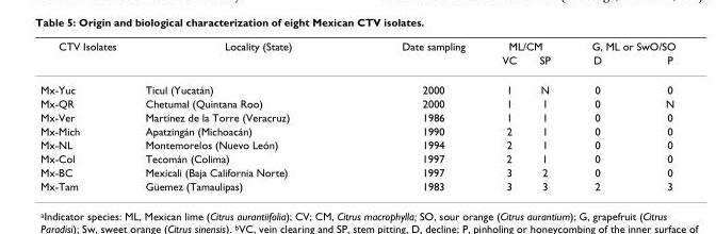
<table><thead><tr><td rowspan="2">CTV Isolates</td><td rowspan="2">Locality (State)</td><td rowspan="2">Date sampling</td><td colspan="2">ML/CM</td><td colspan="2">G, ML or SwO/SO</td></tr><tr><td>VC</td><td>SP</td><td>D</td><td>P</td></tr></thead><tbody><tr><td>Mx-Yuc</td><td>Ticul (Yucatán)</td><td>2000</td><td>1</td><td>N</td><td>0</td><td>0</td></tr><tr><td>Mx-QR</td><td>Chetumal (Quintana Roo)</td><td>2000</td><td>1</td><td>1</td><td>0</td><td>N</td></tr><tr><td>Mx-Ver</td><td>Martínez de la Torre (Veracruz)</td><td>1986</td><td>1</td><td>1</td><td>0</td><td>0</td></tr><tr><td>Mx-Mich</td><td>Apatzingán (Michoacán)</td><td>1990</td><td>2</td><td>1</td><td>0</td><td>0</td></tr><tr><td>Mx-NL</td><td>Montemorelos (Nuevo León)</td><td>1994</td><td>2</td><td>1</td><td>0</td><td>0</td></tr><tr><td>Mx-Col</td><td>Tecomán (Colima)</td><td>1997</td><td>2</td><td>1</td><td>0</td><td>0</td></tr><tr><td>Mx-BC</td><td>Mexicali (Baja California Norte)</td><td>1997</td><td>3</td><td>2</td><td>0</td><td>0</td></tr><tr><td>Mx-Tam</td><td>Güemez (Tamaulipas)</td><td>1983</td><td>3</td><td>3</td><td>2</td><td>3</td></tr></tbody></table>